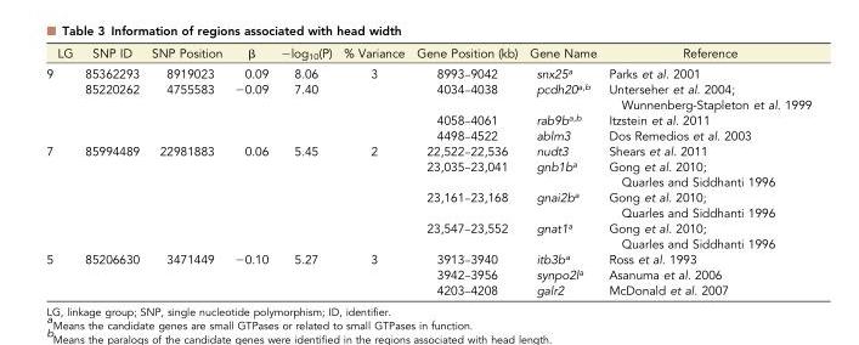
<table><thead><tr><td>LG</td><td>SNP ID</td><td>SNP Position</td><td>β</td><td>−log<sub>10</sub>(P)</td><td>% Variance</td><td>Gene Position (kb)</td><td>Gene Name</td><td>Reference</td></tr></thead><tbody><tr><td rowspan="4">9</td><td>85362293</td><td>8919023</td><td>0.09</td><td>8.06</td><td>3</td><td>8993–9042</td><td>snx25<sup>a</sup></td><td>Parks et al. 2001</td></tr><tr><td>85220262</td><td>4755583</td><td>−0.09</td><td>7.40</td><td></td><td>4034–4038</td><td>pcdh20<sup>a,b</sup></td><td>Unterseher et al. 2004; Wunnenberg-Stapleton et al. 1999</td></tr><tr><td></td><td></td><td></td><td></td><td></td><td>4058–4061</td><td>rab9b<sup>a,b</sup></td><td>Itzstein et al. 2011</td></tr><tr><td></td><td></td><td></td><td></td><td></td><td>4498–4522</td><td>ablm3</td><td>Dos Remedios et al. 2003</td></tr><tr><td rowspan="4">7</td><td>85994489</td><td>22981883</td><td>0.06</td><td>5.45</td><td>2</td><td>22,522–22,536</td><td>nudt3</td><td>Shears et al. 2011</td></tr><tr><td></td><td></td><td></td><td></td><td></td><td>23,035–23,041</td><td>gnb1b<sup>a</sup></td><td>Gong et al. 2010; Quarles and Siddhanti 1996</td></tr><tr><td></td><td></td><td></td><td></td><td></td><td>23,161–23,168</td><td>gnai2b<sup>a</sup></td><td>Gong et al. 2010; Quarles and Siddhanti 1996</td></tr><tr><td></td><td></td><td></td><td></td><td></td><td>23,547–23,552</td><td>gnat1<sup>a</sup></td><td>Gong et al. 2010; Quarles and Siddhanti 1996</td></tr><tr><td rowspan="3">5</td><td>85206630</td><td>3471449</td><td>−0.10</td><td>5.27</td><td>3</td><td>3913–3940</td><td>itb3b<sup>a</sup></td><td>Ross et al. 1993</td></tr><tr><td></td><td></td><td></td><td></td><td></td><td>3942–3956</td><td>synpo2l<sup>a</sup></td><td>Asanuma et al. 2006</td></tr><tr><td></td><td></td><td></td><td></td><td></td><td>4203–4208</td><td>galr2</td><td>McDonald et al. 2007</td></tr></tbody></table>